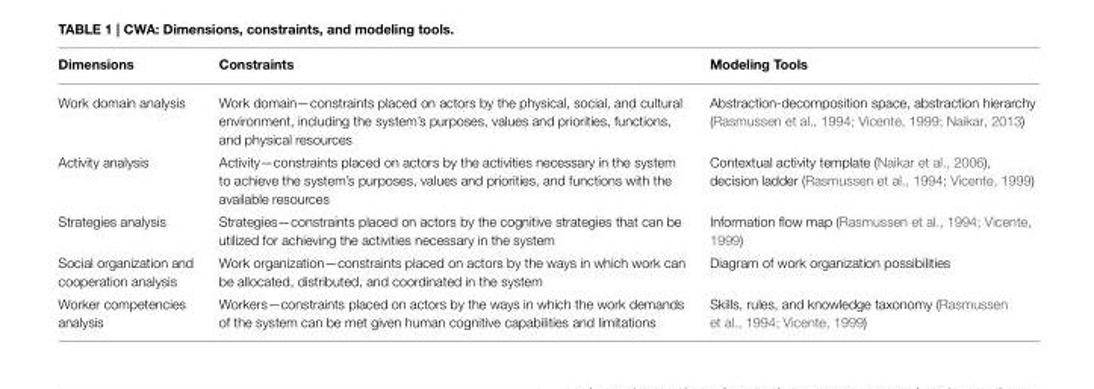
<table><thead><tr><td>Dimensions</td><td>Constraints</td><td>Modeling Tools</td></tr></thead><tbody><tr><td>Work domain analysis</td><td>Work domain—constraints placed on actors by the physical, social, and cultural environment, including the system’s purposes, values and priorities, functions, and physical resources</td><td>Abstraction-decomposition space, abstraction hierarchy (Rasmussen et al., 1994; Vicente, 1999; Naikar, 2013)</td></tr><tr><td>Activity analysis</td><td>Activity—constraints placed on actors by the activities necessary in the system to achieve the system’s purposes, values and priorities, and functions with the available resources</td><td>Contextual activity template (Naikar et al., 2006), decision ladder (Rasmussen et al., 1994; Vicente, 1999)</td></tr><tr><td>Strategies analysis</td><td>Strategies—constraints placed on actors by the cognitive strategies that can be utilized for achieving the activities necessary in the system</td><td>Information flow map (Rasmussen et al., 1994; Vicente, 1999)</td></tr><tr><td>Social organization and cooperation analysis</td><td>Work organization—constraints placed on actors by the ways in which work can be allocated, distributed, and coordinated in the system</td><td>Diagram of work organization possibilities</td></tr><tr><td>Worker competencies analysis</td><td>Workers—constraints placed on actors by the ways in which the work demands of the system can be met given human cognitive capabilities and limitations</td><td>Skills, rules, and knowledge taxonomy (Rasmussen et al., 1994; Vicente, 1999)</td></tr></tbody></table>